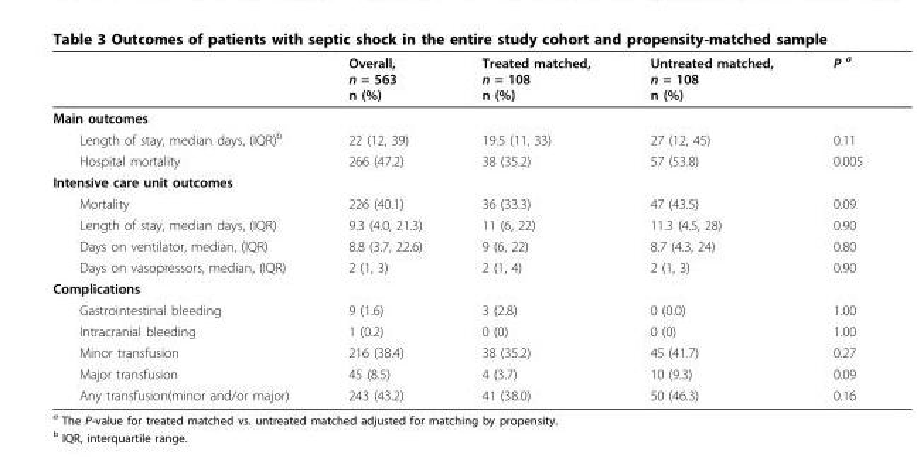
<table><thead><tr><td></td><td>Overall, n = 563 n (%)</td><td>Treated matched, n = 108 n (%)</td><td>Untreated matched, n = 108 n (%)</td><td>P <sup>a</sup></td></tr></thead><tbody><tr><td colspan="5">Main outcomes</td></tr><tr><td>Length of stay, median days, (IQR)<sup>b</sup></td><td>22 (12, 39)</td><td>19.5 (11, 33)</td><td>27 (12, 45)</td><td>0.11</td></tr><tr><td>Hospital mortality</td><td>266 (47.2)</td><td>38 (35.2)</td><td>57 (53.8)</td><td>0.005</td></tr><tr><td colspan="5">Intensive care unit outcomes</td></tr><tr><td>Mortality</td><td>226 (40.1)</td><td>36 (33.3)</td><td>47 (43.5)</td><td>0.09</td></tr><tr><td>Length of stay, median days, (IQR)</td><td>9.3 (4.0, 21.3)</td><td>11 (6, 22)</td><td>11.3 (4.5, 28)</td><td>0.90</td></tr><tr><td>Days on ventilator, median, (IQR)</td><td>8.8 (3.7, 22.6)</td><td>9 (6, 22)</td><td>8.7 (4.3, 24)</td><td>0.80</td></tr><tr><td>Days on vasopressors, median, (IQR)</td><td>2 (1, 3)</td><td>2 (1, 4)</td><td>2 (1, 3)</td><td>0.90</td></tr><tr><td colspan="5">Complications</td></tr><tr><td>Gastrointestinal bleeding</td><td>9 (1.6)</td><td>3 (2.8)</td><td>0 (0.0)</td><td>1.00</td></tr><tr><td>Intracranial bleeding</td><td>1 (0.2)</td><td>0 (0)</td><td>0 (0)</td><td>1.00</td></tr><tr><td>Minor transfusion</td><td>216 (38.4)</td><td>38 (35.2)</td><td>45 (41.7)</td><td>0.27</td></tr><tr><td>Major transfusion</td><td>45 (8.5)</td><td>4 (3.7)</td><td>10 (9.3)</td><td>0.09</td></tr><tr><td>Any transfusion(minor and/or major)</td><td>243 (43.2)</td><td>41 (38.0)</td><td>50 (46.3)</td><td>0.16</td></tr></tbody></table>